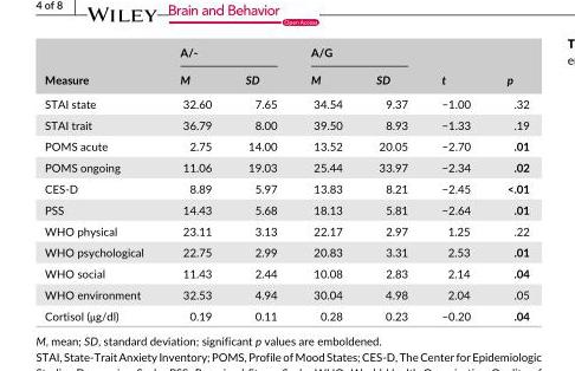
<table><thead><tr><td rowspan="2">Measure</td><td colspan="2">A/-</td><td colspan="2">A/G</td><td rowspan="2">t</td><td rowspan="2">p</td></tr><tr><td>M</td><td>SD</td><td>M</td><td>SD</td></tr></thead><tbody><tr><td>STAI state</td><td>32.60</td><td>7.65</td><td>34.54</td><td>9.37</td><td>−1.00</td><td>.32</td></tr><tr><td>STAI trait</td><td>36.79</td><td>8.00</td><td>39.50</td><td>8.93</td><td>−1.33</td><td>.19</td></tr><tr><td>POMS acute</td><td>2.75</td><td>14.00</td><td>13.52</td><td>20.05</td><td>−2.70</td><td>.01</td></tr><tr><td>POMS ongoing</td><td>11.06</td><td>19.03</td><td>25.44</td><td>33.97</td><td>−2.34</td><td>.02</td></tr><tr><td>CES- D</td><td>8.89</td><td>5.97</td><td>13.83</td><td>8.21</td><td>−2.45</td><td>&lt;.01</td></tr><tr><td>PSS</td><td>14.43</td><td>5.68</td><td>18.13</td><td>5.81</td><td>−2.64</td><td>.01</td></tr><tr><td>WHO physical</td><td>23.11</td><td>3.13</td><td>22.17</td><td>2.97</td><td>1.25</td><td>.22</td></tr><tr><td>WHO psychological</td><td>22.75</td><td>2.99</td><td>20.83</td><td>3.31</td><td>2.53</td><td>.01</td></tr><tr><td>WHO social</td><td>11.43</td><td>2.44</td><td>10.08</td><td>2.83</td><td>2.14</td><td>.04</td></tr><tr><td>WHO environment</td><td>32.53</td><td>4.94</td><td>30.04</td><td>4.98</td><td>2.04</td><td>.05</td></tr><tr><td>Cortisol (μg/dl)</td><td>0.19</td><td>0.11</td><td>0.28</td><td>0.23</td><td>−0.20</td><td>.04</td></tr></tbody></table>